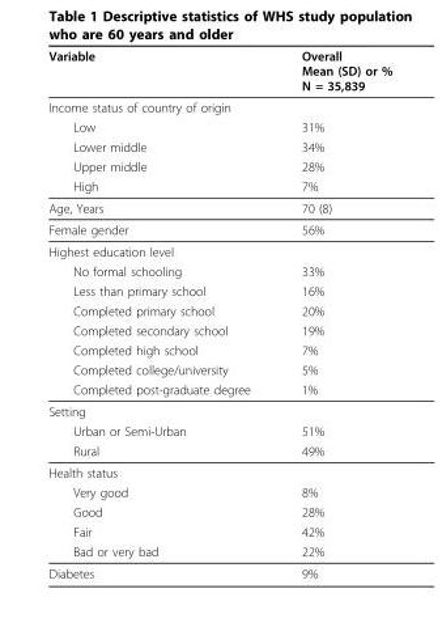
<table><thead><tr><td>Variable</td><td>Overall Mean (SD) or % N = 35,839</td></tr></thead><tbody><tr><td colspan="2">Income status of country of origin</td></tr><tr><td>Low</td><td>31%</td></tr><tr><td>Lower middle</td><td>34%</td></tr><tr><td>Upper middle</td><td>28%</td></tr><tr><td>High</td><td>7%</td></tr><tr><td>Age, Years</td><td>70 (8)</td></tr><tr><td>Female gender</td><td>56%</td></tr><tr><td colspan="2">Highest education level</td></tr><tr><td>No formal schooling</td><td>33%</td></tr><tr><td>Less than primary school</td><td>16%</td></tr><tr><td>Completed primary school</td><td>20%</td></tr><tr><td>Completed secondary school</td><td>19%</td></tr><tr><td>Completed high school</td><td>7%</td></tr><tr><td>Completed college/university</td><td>5%</td></tr><tr><td>Completed post-graduate degree</td><td>1%</td></tr><tr><td colspan="2">Setting</td></tr><tr><td>Urban or Semi-Urban</td><td>51%</td></tr><tr><td>Rural</td><td>49%</td></tr><tr><td colspan="2">Health status</td></tr><tr><td>Very good</td><td>8%</td></tr><tr><td>Good</td><td>28%</td></tr><tr><td>Fair</td><td>42%</td></tr><tr><td>Bad or very bad</td><td>22%</td></tr><tr><td>Diabetes</td><td>9%</td></tr></tbody></table>